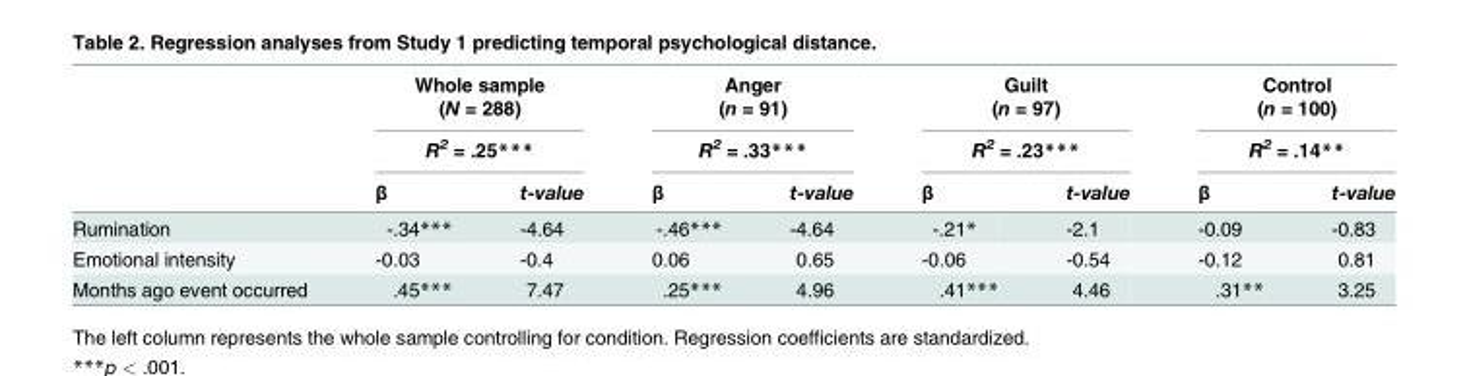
<table><thead><tr><td rowspan="4"></td><td rowspan="3" colspan="2">Whole sample (N = 288) R<sup>2</sup> = .25***</td><td rowspan="3" colspan="2">Anger (n = 91) R<sup>2</sup> = .33***</td><td rowspan="3" colspan="2">Guilt (n = 97) R<sup>2</sup> = .23***</td><td rowspan="3" colspan="2">Control (n = 100) R<sup>2</sup> = .14**</td></tr><tr></tr><tr></tr><tr><td>β</td><td>t-value</td><td>β</td><td>t-value</td><td>β</td><td>t-value</td><td>β</td><td>t-value</td></tr></thead><tbody><tr><td>Rumination</td><td>-.34***</td><td>-4.64</td><td>-.46***</td><td>-4.64</td><td>-.21*</td><td>-2.1</td><td>-0.09</td><td>-0.83</td></tr><tr><td>Emotional intensity</td><td>-0.03</td><td>-0.4</td><td>0.06</td><td>0.65</td><td>-0.06</td><td>-0.54</td><td>-0.12</td><td>0.81</td></tr><tr><td>Months ago event occurred</td><td>.45***</td><td>7.47</td><td>.25***</td><td>4.96</td><td>.41***</td><td>4.46</td><td>.31**</td><td>3.25</td></tr></tbody></table>